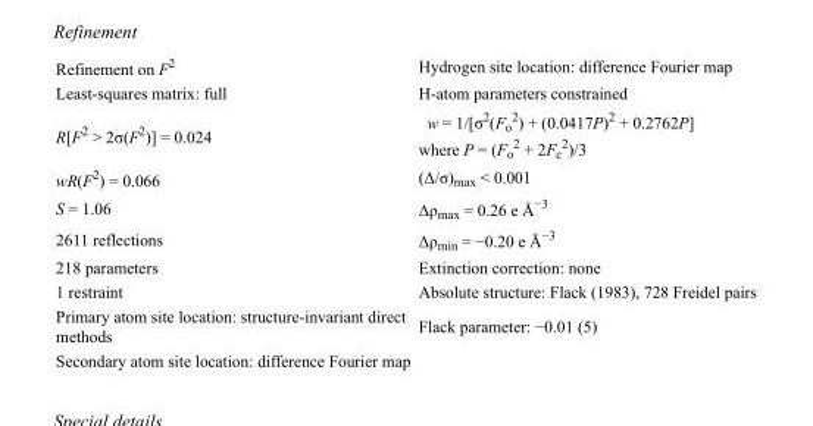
<table><tbody><tr><td>Refinement on F<sup>2</sup></td><td>Hydrogen site location: difference Fourier map</td></tr><tr><td>Least-squares matrix: full</td><td>H-atom parameters constrained</td></tr><tr><td>R[F<sup>2</sup> &gt; 2σ(F<sup>2</sup>)] = 0.024</td><td>w = 1/[σ<sup>2</sup>(F<sub>o</sub> <sup>2</sup>) + (0.0417P)<sup>2</sup> + 0.2762P] where P = (F<sub>o</sub> <sup>2</sup> + 2F<sub>c</sub> <sup>2</sup>)/3</td></tr><tr><td>wR(F<sup>2</sup>) = 0.066</td><td>(Δ/σ)<sub>max</sub> &lt; 0.001</td></tr><tr><td>S = 1.06</td><td>Δρ<sub>max</sub> = 0.26 e Å<sup>−3</sup></td></tr><tr><td>2611 reflections</td><td>Δρ<sub>min</sub> = −0.20 e Å<sup>−3</sup></td></tr><tr><td>218 parameters</td><td>Extinction correction: none</td></tr><tr><td>1 restraint</td><td>Absolute structure: Flack (1983), 728 Freidel pairs</td></tr><tr><td>Primary atom site location: structure-invariant direct methods</td><td>Flack parameter: −0.01 (5)</td></tr><tr><td>Secondary atom site location: difference Fourier map</td><td></td></tr></tbody></table>